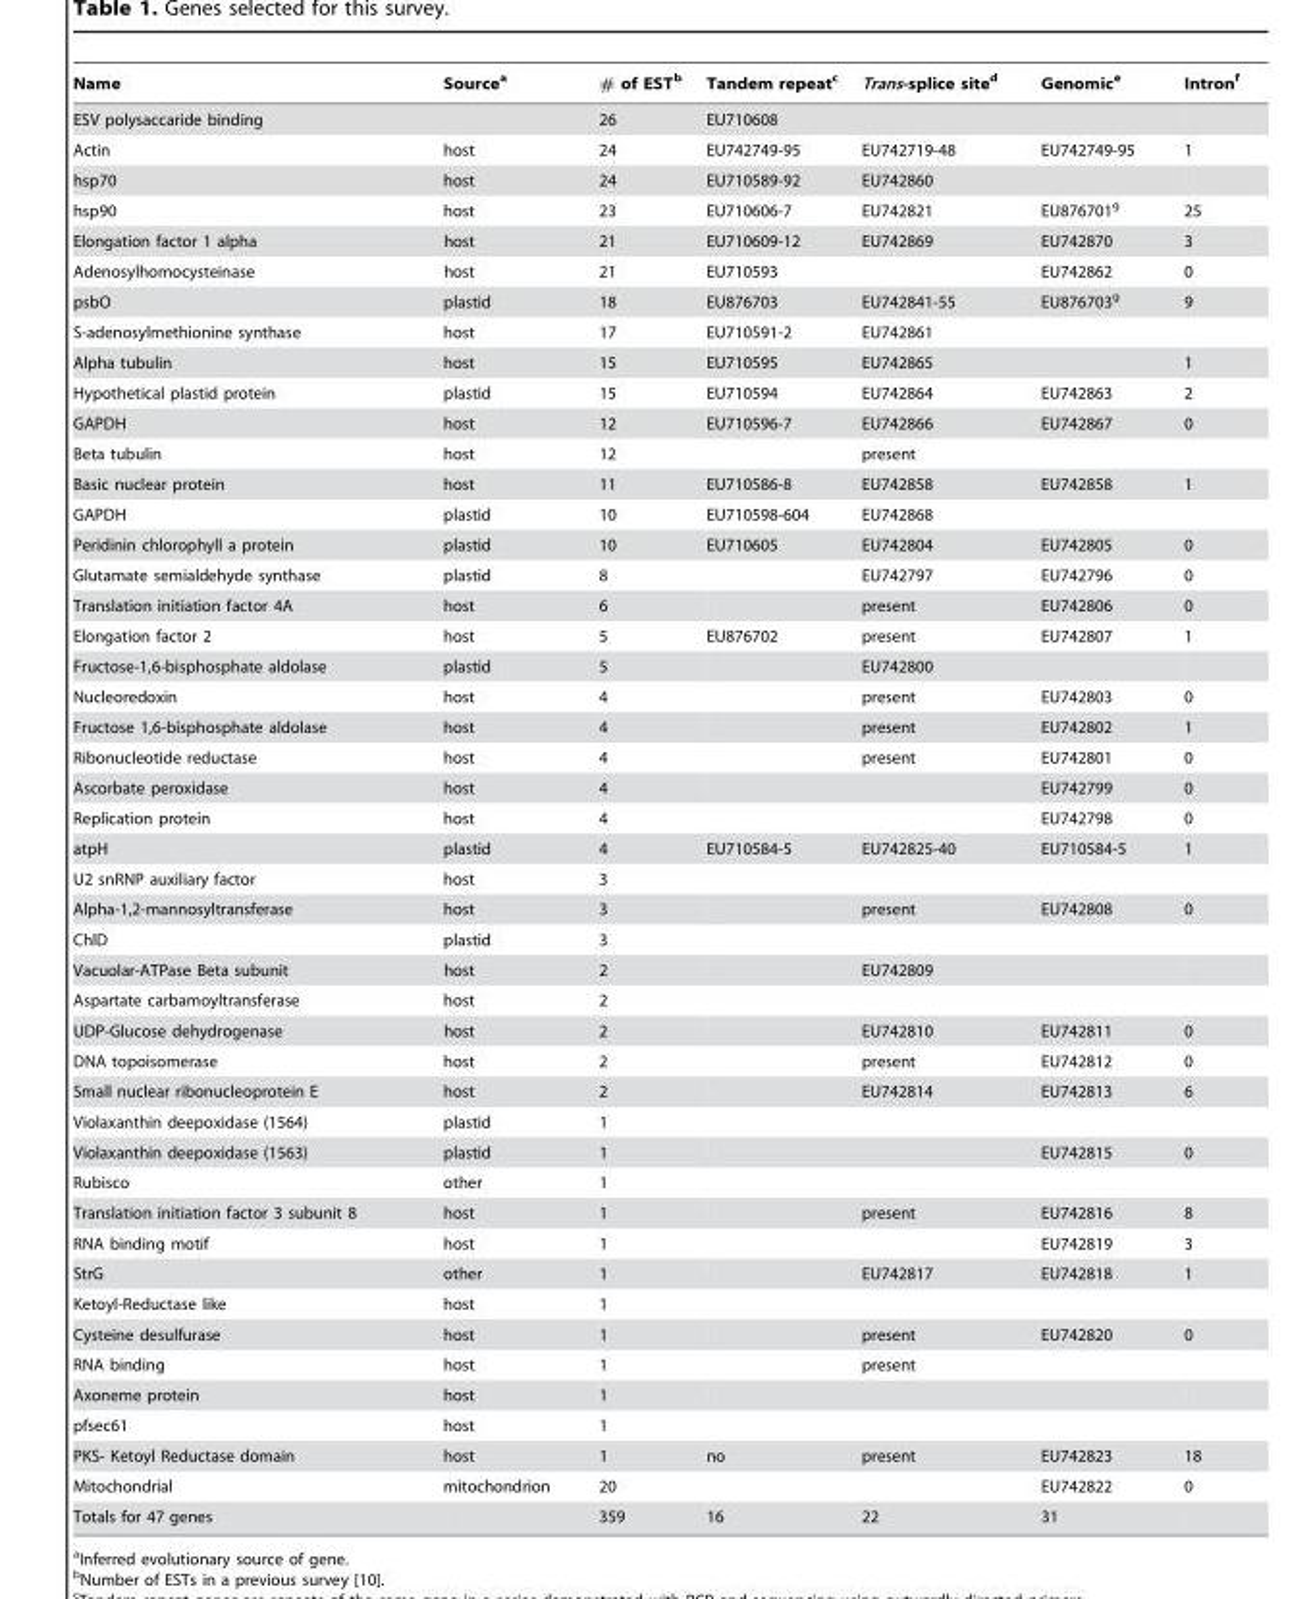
<table><thead><tr><td>Name</td><td>Source<sup>a</sup></td><td># of EST<sup>b</sup></td><td>Tandem repeat<sup>c</sup></td><td>Trans-splice site<sup>d</sup></td><td>Genomic<sup>e</sup></td><td>Intron<sup>f</sup></td></tr></thead><tbody><tr><td>ESV polysaccaride binding</td><td></td><td>26</td><td>EU710608</td><td></td><td></td><td></td></tr><tr><td>Actin</td><td>host</td><td>24</td><td>EU742749-95</td><td>EU742719-48</td><td>EU742749-95</td><td>1</td></tr><tr><td>hsp70</td><td>host</td><td>24</td><td>EU710589-92</td><td>EU742860</td><td></td><td></td></tr><tr><td>hsp90</td><td>host</td><td>23</td><td>EU710606-7</td><td>EU742821</td><td>EU876701<sup>g</sup></td><td>25</td></tr><tr><td>Elongation factor 1 alpha</td><td>host</td><td>21</td><td>EU710609-12</td><td>EU742869</td><td>EU742870</td><td>3</td></tr><tr><td>Adenosylhomocysteinase</td><td>host</td><td>21</td><td>EU710593</td><td></td><td>EU742862</td><td>0</td></tr><tr><td>psbO</td><td>plastid</td><td>18</td><td>EU876703</td><td>EU742841-55</td><td>EU876703<sup>g</sup></td><td>9</td></tr><tr><td>S-adenosylmethionine synthase</td><td>host</td><td>17</td><td>EU710591-2</td><td>EU742861</td><td></td><td></td></tr><tr><td>Alpha tubulin</td><td>host</td><td>15</td><td>EU710595</td><td>EU742865</td><td></td><td>1</td></tr><tr><td>Hypothetical plastid protein</td><td>plastid</td><td>15</td><td>EU710594</td><td>EU742864</td><td>EU742863</td><td>2</td></tr><tr><td>GAPDH</td><td>host</td><td>12</td><td>EU710596-7</td><td>EU742866</td><td>EU742867</td><td>0</td></tr><tr><td>Beta tubulin</td><td>host</td><td>12</td><td></td><td>present</td><td></td><td></td></tr><tr><td>Basic nuclear protein</td><td>host</td><td>11</td><td>EU710586-8</td><td>EU742858</td><td>EU742858</td><td>1</td></tr><tr><td>GAPDH</td><td>plastid</td><td>10</td><td>EU710598-604</td><td>EU742868</td><td></td><td></td></tr><tr><td>Peridinin chlorophyll a protein</td><td>plastid</td><td>10</td><td>EU710605</td><td>EU742804</td><td>EU742805</td><td>0</td></tr><tr><td>Glutamate semialdehyde synthase</td><td>plastid</td><td>8</td><td></td><td>EU742797</td><td>EU742796</td><td>0</td></tr><tr><td>Translation initiation factor 4A</td><td>host</td><td>6</td><td></td><td>present</td><td>EU742806</td><td>0</td></tr><tr><td>Elongation factor 2</td><td>host</td><td>5</td><td>EU876702</td><td>present</td><td>EU742807</td><td>1</td></tr><tr><td>Fructose-1,6-bisphosphate aldolase</td><td>plastid</td><td>5</td><td></td><td>EU742800</td><td></td><td></td></tr><tr><td>Nucleoredoxin</td><td>host</td><td>4</td><td></td><td>present</td><td>EU742803</td><td>0</td></tr><tr><td>Fructose 1,6-bisphosphate aldolase</td><td>host</td><td>4</td><td></td><td>present</td><td>EU742802</td><td>1</td></tr><tr><td>Ribonucleotide reductase</td><td>host</td><td>4</td><td></td><td>present</td><td>EU742801</td><td>0</td></tr><tr><td>Ascorbate peroxidase</td><td>host</td><td>4</td><td></td><td></td><td>EU742799</td><td>0</td></tr><tr><td>Replication protein</td><td>host</td><td>4</td><td></td><td></td><td>EU742798</td><td>0</td></tr><tr><td>atpH</td><td>plastid</td><td>4</td><td>EU710584-5</td><td>EU742825-40</td><td>EU710584-5</td><td>1</td></tr><tr><td>U2 snRNP auxiliary factor</td><td>host</td><td>3</td><td></td><td></td><td></td><td></td></tr><tr><td>Alpha-1,2-mannosyltransferase</td><td>host</td><td>3</td><td></td><td>present</td><td>EU742808</td><td>0</td></tr><tr><td>ChlD</td><td>plastid</td><td>3</td><td></td><td></td><td></td><td></td></tr><tr><td>Vacuolar-ATPase Beta subunit</td><td>host</td><td>2</td><td></td><td>EU742809</td><td></td><td></td></tr><tr><td>Aspartate carbamoyltransferase</td><td>host</td><td>2</td><td></td><td></td><td></td><td></td></tr><tr><td>UDP-Glucose dehydrogenase</td><td>host</td><td>2</td><td></td><td>EU742810</td><td>EU742811</td><td>0</td></tr><tr><td>DNA topoisomerase</td><td>host</td><td>2</td><td></td><td>present</td><td>EU742812</td><td>0</td></tr><tr><td>Small nuclear ribonucleoprotein E</td><td>host</td><td>2</td><td></td><td>EU742814</td><td>EU742813</td><td>6</td></tr><tr><td>Violaxanthin deepoxidase (1564)</td><td>plastid</td><td>1</td><td></td><td></td><td></td><td></td></tr><tr><td>Violaxanthin deepoxidase (1563)</td><td>plastid</td><td>1</td><td></td><td></td><td>EU742815</td><td>0</td></tr><tr><td>Rubisco</td><td>other</td><td>1</td><td></td><td></td><td></td><td></td></tr><tr><td>Translation initiation factor 3 subunit 8</td><td>host</td><td>1</td><td></td><td>present</td><td>EU742816</td><td>8</td></tr><tr><td>RNA binding motif</td><td>host</td><td>1</td><td></td><td></td><td>EU742819</td><td>3</td></tr><tr><td>StrG</td><td>other</td><td>1</td><td></td><td>EU742817</td><td>EU742818</td><td>1</td></tr><tr><td>Ketoyl-Reductase like</td><td>host</td><td>1</td><td></td><td></td><td></td><td></td></tr><tr><td>Cysteine desulfurase</td><td>host</td><td>1</td><td></td><td>present</td><td>EU742820</td><td>0</td></tr><tr><td>RNA binding</td><td>host</td><td>1</td><td></td><td>present</td><td></td><td></td></tr><tr><td>Axoneme protein</td><td>host</td><td>1</td><td></td><td></td><td></td><td></td></tr><tr><td>pfsec61</td><td>host</td><td>1</td><td></td><td></td><td></td><td></td></tr><tr><td>PKS- Ketoyl Reductase domain</td><td>host</td><td>1</td><td>no</td><td>present</td><td>EU742823</td><td>18</td></tr><tr><td>Mitochondrial</td><td>mitochondrion</td><td>20</td><td></td><td></td><td>EU742822</td><td>0</td></tr><tr><td>Totals for 47 genes</td><td></td><td>359</td><td>16</td><td>22</td><td>31</td><td></td></tr></tbody></table>